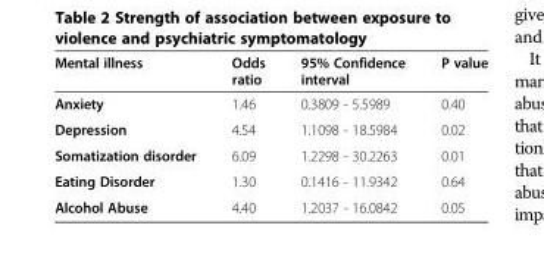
<table><thead><tr><td>Mental illness</td><td>Odds ratio</td><td>95% Confidence interval</td><td>P value</td></tr></thead><tbody><tr><td>Anxiety</td><td>1.46</td><td>0.3809 - 5.5989</td><td>0.40</td></tr><tr><td>Depression</td><td>4.54</td><td>1.1098 - 18.5984</td><td>0.02</td></tr><tr><td>Somatization disorder</td><td>6.09</td><td>1.2298 - 30.2263</td><td>0.01</td></tr><tr><td>Eating Disorder</td><td>1.30</td><td>0.1416 - 11.9342</td><td>0.64</td></tr><tr><td>Alcohol Abuse</td><td>4.40</td><td>1.2037 - 16.0842</td><td>0.05</td></tr></tbody></table>